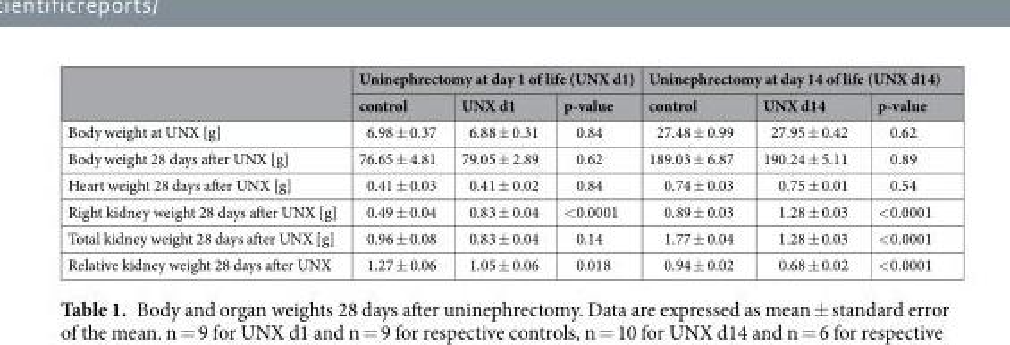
<table><thead><tr><td rowspan="2"></td><td colspan="3">Uninephrectomy at day 1 of life (UNX d1)</td><td colspan="3">Uninephrectomy at day 14 of life (UNX d14)</td></tr><tr><td>control</td><td>UNX d1</td><td>p-value</td><td>control</td><td>UNX d14</td><td>p-value</td></tr></thead><tbody><tr><td>Body weight at UNX [g]</td><td>6.98 ± 0.37</td><td>6.88 ± 0.31</td><td>0.84</td><td>27.48 ± 0.99</td><td>27.95 ± 0.42</td><td>0.62</td></tr><tr><td>Body weight 28 days after UNX [g]</td><td>76.65 ± 4.81</td><td>79.05 ± 2.89</td><td>0.62</td><td>189.03 ± 6.87</td><td>190.24 ± 5.11</td><td>0.89</td></tr><tr><td>Heart weight 28 days after UNX [g]</td><td>0.41 ± 0.03</td><td>0.41 ± 0.02</td><td>0.84</td><td>0.74 ± 0.03</td><td>0.75 ± 0.01</td><td>0.54</td></tr><tr><td>Right kidney weight 28 days after UNX [g]</td><td>0.49 ± 0.04</td><td>0.83 ± 0.04</td><td>&lt;0.0001</td><td>0.89 ± 0.03</td><td>1.28 ± 0.03</td><td>&lt;0.0001</td></tr><tr><td>Total kidney weight 28 days after UNX [g]</td><td>0.96 ± 0.08</td><td>0.83 ± 0.04</td><td>0.14</td><td>1.77 ± 0.04</td><td>1.28 ± 0.03</td><td>&lt;0.0001</td></tr><tr><td>Relative kidney weight 28 days after UNX</td><td>1.27 ± 0.06</td><td>1.05 ± 0.06</td><td>0.018</td><td>0.94 ± 0.02</td><td>0.68 ± 0.02</td><td>&lt;0.0001</td></tr></tbody></table>